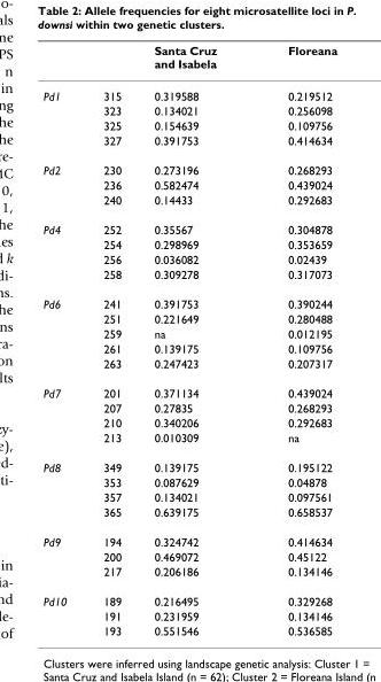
<table><thead><tr><td></td><td></td><td>Santa Cruz and Isabela</td><td>Floreana</td></tr></thead><tbody><tr><td rowspan="4">Pd1</td><td>315</td><td>0.319588</td><td>0.219512</td></tr><tr><td>323</td><td>0.134021</td><td>0.256098</td></tr><tr><td>325</td><td>0.154639</td><td>0.109756</td></tr><tr><td>327</td><td>0.391753</td><td>0.414634</td></tr><tr><td rowspan="3">Pd2</td><td>230</td><td>0.273196</td><td>0.268293</td></tr><tr><td>236</td><td>0.582474</td><td>0.439024</td></tr><tr><td>240</td><td>0.14433</td><td>0.292683</td></tr><tr><td rowspan="4">Pd4</td><td>252</td><td>0.35567</td><td>0.304878</td></tr><tr><td>254</td><td>0.298969</td><td>0.353659</td></tr><tr><td>256</td><td>0.036082</td><td>0.02439</td></tr><tr><td>258</td><td>0.309278</td><td>0.317073</td></tr><tr><td rowspan="5">Pd6</td><td>241</td><td>0.391753</td><td>0.390244</td></tr><tr><td>251</td><td>0.221649</td><td>0.280488</td></tr><tr><td>259</td><td>na</td><td>0.012195</td></tr><tr><td>261</td><td>0.139175</td><td>0.109756</td></tr><tr><td>263</td><td>0.247423</td><td>0.207317</td></tr><tr><td rowspan="4">Pd7</td><td>201</td><td>0.371134</td><td>0.439024</td></tr><tr><td>207</td><td>0.27835</td><td>0.268293</td></tr><tr><td>210</td><td>0.340206</td><td>0.292683</td></tr><tr><td>213</td><td>0.010309</td><td>na</td></tr><tr><td rowspan="4">Pd8</td><td>349</td><td>0.139175</td><td>0.195122</td></tr><tr><td>353</td><td>0.087629</td><td>0.04878</td></tr><tr><td>357</td><td>0.134021</td><td>0.097561</td></tr><tr><td>365</td><td>0.639175</td><td>0.658537</td></tr><tr><td rowspan="3">Pd9</td><td>194</td><td>0.324742</td><td>0.414634</td></tr><tr><td>200</td><td>0.469072</td><td>0.45122</td></tr><tr><td>217</td><td>0.206186</td><td>0.134146</td></tr><tr><td rowspan="3">Pd10</td><td>189</td><td>0.216495</td><td>0.329268</td></tr><tr><td>191</td><td>0.231959</td><td>0.134146</td></tr><tr><td>193</td><td>0.551546</td><td>0.536585</td></tr></tbody></table>